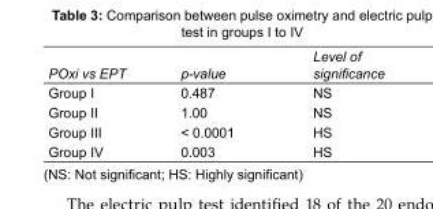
<table><tbody><tr><td>POxi vs EPT</td><td>p-value</td><td>Level of significance</td></tr><tr><td>Group I</td><td>0.487</td><td>NS</td></tr><tr><td>Group II</td><td>1.00</td><td>NS</td></tr><tr><td>Group III</td><td>&lt; 0.0001</td><td>HS</td></tr><tr><td>Group IV</td><td>0.003</td><td>HS</td></tr></tbody></table>